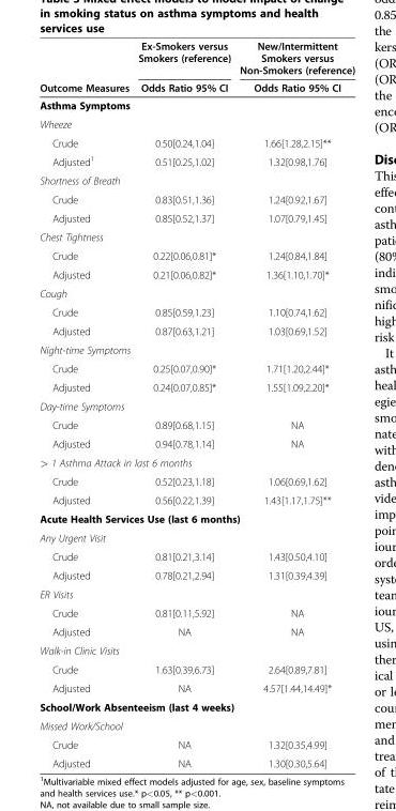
<table><thead><tr><td rowspan="2">Outcome Measures</td><td rowspan="2">Ex-Smokers versus Smokers (reference) Odds Ratio 95% CI</td><td rowspan="2">New/Intermittent Smokers versus Non-Smokers (reference) Odds Ratio 95% CI</td></tr><tr></tr></thead><tbody><tr><td colspan="3">Asthma Symptoms</td></tr><tr><td colspan="3">Wheeze</td></tr><tr><td>Crude</td><td>0.50[0.24,1.04]</td><td>1.66[1.28,2.15]**</td></tr><tr><td>Adjusted<sup>1</sup></td><td>0.51[0.25,1.02]</td><td>1.32[0.98,1.76]</td></tr><tr><td colspan="3">Shortness of Breath</td></tr><tr><td>Crude</td><td>0.83[0.51,1.36]</td><td>1.24[0.92,1.67]</td></tr><tr><td>Adjusted</td><td>0.85[0.52,1.37]</td><td>1.07[0.79,1.45]</td></tr><tr><td colspan="3">Chest Tightness</td></tr><tr><td>Crude</td><td>0.22[0.06,0.81]*</td><td>1.24[0.84,1.84]</td></tr><tr><td>Adjusted</td><td>0.21[0.06,0.82]*</td><td>1.36[1.10,1.70]*</td></tr><tr><td colspan="3">Cough</td></tr><tr><td>Crude</td><td>0.85[0.59,1.23]</td><td>1.10[0.74,1.62]</td></tr><tr><td>Adjusted</td><td>0.87[0.63,1.21]</td><td>1.03[0.69,1.52]</td></tr><tr><td colspan="3">Night-time Symptoms</td></tr><tr><td>Crude</td><td>0.25[0.07,0.90]*</td><td>1.71[1.20,2.44]*</td></tr><tr><td>Adjusted</td><td>0.24[0.07,0.85]*</td><td>1.55[1.09,2.20]*</td></tr><tr><td colspan="3">Day-time Symptoms</td></tr><tr><td>Crude</td><td>0.89[0.68,1.15]</td><td>NA</td></tr><tr><td>Adjusted</td><td>0.94[0.78,1.14]</td><td>NA</td></tr><tr><td colspan="3">&gt; 1 Asthma Attack in last 6 months</td></tr><tr><td>Crude</td><td>0.52[0.23,1.18]</td><td>1.06[0.69,1.62]</td></tr><tr><td>Adjusted</td><td>0.56[0.22,1.39]</td><td>1.43[1.17,1.75]**</td></tr><tr><td colspan="3">Acute Health Services Use (last 6 months)</td></tr><tr><td colspan="3">Any Urgent Visit</td></tr><tr><td>Crude</td><td>0.81[0.21,3.14]</td><td>1.43[0.50,4.10]</td></tr><tr><td>Adjusted</td><td>0.78[0.21,2.94]</td><td>1.31[0.39,4.39]</td></tr><tr><td colspan="3">ER Visits</td></tr><tr><td>Crude</td><td>0.81[0.11,5.92]</td><td>NA</td></tr><tr><td>Adjusted</td><td>NA</td><td>NA</td></tr><tr><td colspan="3">Walk-in Clinic Visits</td></tr><tr><td>Crude</td><td>1.63[0.39,6.73]</td><td>2.64[0.89,7.81]</td></tr><tr><td>Adjusted</td><td>NA</td><td>4.57[1.44,14.49]*</td></tr><tr><td colspan="3">School/Work Absenteeism (last 4 weeks)</td></tr><tr><td colspan="3">Missed Work/School</td></tr><tr><td>Crude</td><td>NA</td><td>1.32[0.35,4.99]</td></tr><tr><td>Adjusted</td><td>NA</td><td>1.30[0.30,5.64]</td></tr></tbody></table>